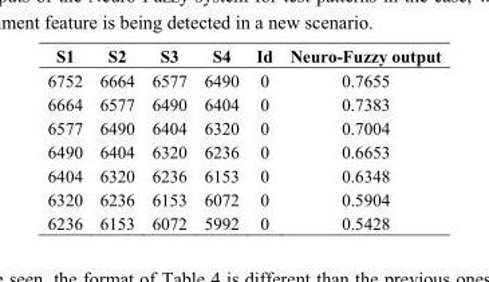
<table><thead><tr><td>S1</td><td>S2</td><td>S3</td><td>S4</td><td>Id</td><td>Neuro-Fuzzy output</td></tr></thead><tbody><tr><td>6752</td><td>6664</td><td>6577</td><td>6490</td><td>0</td><td>0.7655</td></tr><tr><td>6664</td><td>6577</td><td>6490</td><td>6404</td><td>0</td><td>0.7383</td></tr><tr><td>6577</td><td>6490</td><td>6404</td><td>6320</td><td>0</td><td>0.7004</td></tr><tr><td>6490</td><td>6404</td><td>6320</td><td>6236</td><td>0</td><td>0.6653</td></tr><tr><td>6404</td><td>6320</td><td>6236</td><td>6153</td><td>0</td><td>0.6348</td></tr><tr><td>6320</td><td>6236</td><td>6153</td><td>6072</td><td>0</td><td>0.5904</td></tr><tr><td>6236</td><td>6153</td><td>6072</td><td>5992</td><td>0</td><td>0.5428</td></tr></tbody></table>